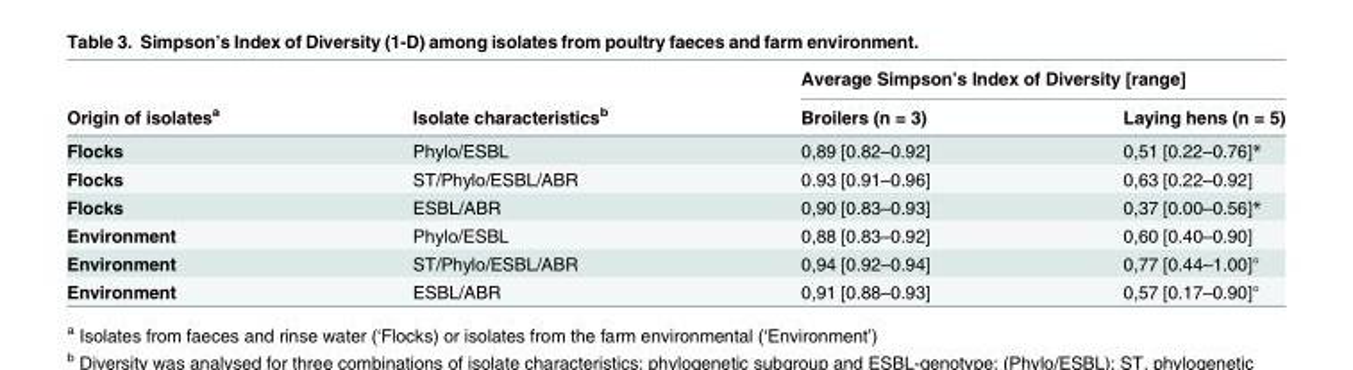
<table><thead><tr><td rowspan="2">Origin of isolates<sup>a</sup></td><td rowspan="2">Isolate characteristics<sup>b</sup></td><td colspan="2">Average Simpson’s Index of Diversity [range]</td></tr><tr><td>Broilers (n = 3)</td><td>Laying hens (n = 5)</td></tr></thead><tbody><tr><td>Flocks</td><td>Phylo/ESBL</td><td>0,89 [0.82–0.92]</td><td>0,51 [0.22–0.76]*</td></tr><tr><td>Flocks</td><td>ST/Phylo/ESBL/ABR</td><td>0.93 [0.91–0.96]</td><td>0,63 [0.22–0.92]</td></tr><tr><td>Flocks</td><td>ESBL/ABR</td><td>0,90 [0.83–0.93]</td><td>0,37 [0.00–0.56]*</td></tr><tr><td>Environment</td><td>Phylo/ESBL</td><td>0,88 [0.83–0.92]</td><td>0,60 [0.40–0.90]</td></tr><tr><td>Environment</td><td>ST/Phylo/ESBL/ABR</td><td>0,94 [0.92–0.94]</td><td>0,77 [0.44–1.00]°</td></tr><tr><td>Environment</td><td>ESBL/ABR</td><td>0,91 [0.88–0.93]</td><td>0,57 [0.17–0.90]°</td></tr></tbody></table>